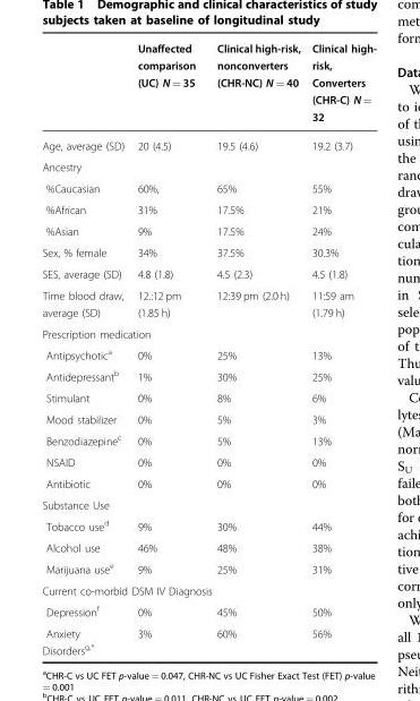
<table><thead><tr><td></td><td>Unaffected comparison (UC) N = 35</td><td>Clinical high-risk, nonconverters (CHR-NC) N = 40</td><td>Clinical high- risk, Converters (CHR-C) N = 32</td></tr></thead><tbody><tr><td>Age, average (SD)</td><td>20 (4.5)</td><td>19.5 (4.6)</td><td>19.2 (3.7)</td></tr><tr><td colspan="4">Ancestry</td></tr><tr><td>%Caucasian</td><td>60%,</td><td>65%</td><td>55%</td></tr><tr><td>%African</td><td>31%</td><td>17.5%</td><td>21%</td></tr><tr><td>%Asian</td><td>9%</td><td>17.5%</td><td>24%</td></tr><tr><td>Sex, % female</td><td>34%</td><td>37.5%</td><td>30.3%</td></tr><tr><td>SES, average (SD)</td><td>4.8 (1.8)</td><td>4.5 (2.3)</td><td>4.5 (1.8)</td></tr><tr><td>Time blood draw, average (SD)</td><td>12.:12 pm (1.85 h)</td><td>12:39 pm (2.0 h)</td><td>11:59 am (1.79 h)</td></tr><tr><td colspan="4">Prescription medication</td></tr><tr><td>Antipsychotic<sup>a</sup></td><td>0%</td><td>25%</td><td>13%</td></tr><tr><td>Antidepressant<sup>b</sup></td><td>1%</td><td>30%</td><td>25%</td></tr><tr><td>Stimulant</td><td>0%</td><td>8%</td><td>6%</td></tr><tr><td>Mood stabilizer</td><td>0%</td><td>5%</td><td>3%</td></tr><tr><td>Benzodiazepine<sup>c</sup></td><td>0%</td><td>5%</td><td>13%</td></tr><tr><td>NSAID</td><td>0%</td><td>0%</td><td>0%</td></tr><tr><td>Antibiotic</td><td>0%</td><td>0%</td><td>0%</td></tr><tr><td colspan="4">Substance Use</td></tr><tr><td>Tobacco use<sup>d</sup></td><td>9%</td><td>30%</td><td>44%</td></tr><tr><td>Alcohol use</td><td>46%</td><td>48%</td><td>38%</td></tr><tr><td>Marijuana use<sup>e</sup></td><td>9%</td><td>25%</td><td>31%</td></tr><tr><td colspan="4">Current co-morbid DSM IV Diagnosis</td></tr><tr><td>Depression<sup>f</sup></td><td>0%</td><td>45%</td><td>50%</td></tr><tr><td>Anxiety Disorders<sup>g,*</sup></td><td>3%</td><td>60%</td><td>56%</td></tr></tbody></table>